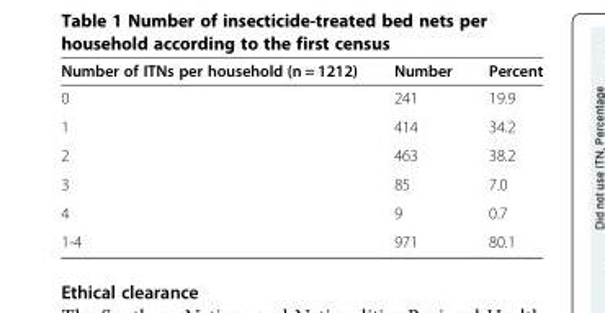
<table><thead><tr><td>Number of ITNs per household (n = 1212)</td><td>Number</td><td>Percent</td></tr></thead><tbody><tr><td>0</td><td>241</td><td>19.9</td></tr><tr><td>1</td><td>414</td><td>34.2</td></tr><tr><td>2</td><td>463</td><td>38.2</td></tr><tr><td>3</td><td>85</td><td>7.0</td></tr><tr><td>4</td><td>9</td><td>0.7</td></tr><tr><td>1-4</td><td>971</td><td>80.1</td></tr></tbody></table>